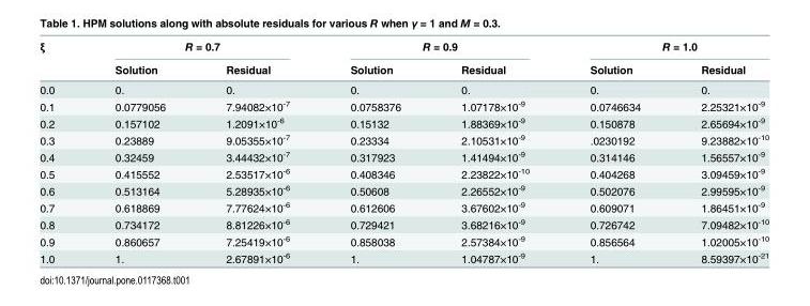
<table><thead><tr><td rowspan="2">ξ</td><td colspan="2">R = 0.7</td><td colspan="2">R = 0.9</td><td colspan="2">R = 1.0</td></tr><tr><td>Solution</td><td>Residual</td><td>Solution</td><td>Residual</td><td>Solution</td><td>Residual</td></tr></thead><tbody><tr><td>0.0</td><td>0.</td><td>0.</td><td>0.</td><td>0.</td><td>0.</td><td>0.</td></tr><tr><td>0.1</td><td>0.0779056</td><td>7.94082×10<sup>-7</sup></td><td>0.0758376</td><td>1.07178×10<sup>-9</sup></td><td>0.0746634</td><td>2.25321×10<sup>-9</sup></td></tr><tr><td>0.2</td><td>0.157102</td><td>1.2091×10<sup>-6</sup></td><td>0.15132</td><td>1.88369×10<sup>-9</sup></td><td>0.150878</td><td>2.65694×10<sup>-9</sup></td></tr><tr><td>0.3</td><td>0.23889</td><td>9.05355×10<sup>-7</sup></td><td>0.23334</td><td>2.10531×10<sup>-9</sup></td><td>.0230192</td><td>9.23882×10<sup>-10</sup></td></tr><tr><td>0.4</td><td>0.32459</td><td>3.44432×10<sup>-7</sup></td><td>0.317923</td><td>1.41494×10<sup>-9</sup></td><td>0.314146</td><td>1.56557×10<sup>-9</sup></td></tr><tr><td>0.5</td><td>0.415552</td><td>2.53517×10<sup>-6</sup></td><td>0.408346</td><td>2.23822×10<sup>-10</sup></td><td>0.404268</td><td>3.09459×10<sup>-9</sup></td></tr><tr><td>0.6</td><td>0.513164</td><td>5.28935×10<sup>-6</sup></td><td>0.50608</td><td>2.26552×10<sup>-9</sup></td><td>0.502076</td><td>2.99595×10<sup>-9</sup></td></tr><tr><td>0.7</td><td>0.618869</td><td>7.77624×10<sup>-6</sup></td><td>0.612606</td><td>3.67602×10<sup>-9</sup></td><td>0.609071</td><td>1.86451×10<sup>-9</sup></td></tr><tr><td>0.8</td><td>0.734172</td><td>8.81226×10<sup>-6</sup></td><td>0.729421</td><td>3.68216×10<sup>-9</sup></td><td>0.726742</td><td>7.09482×10<sup>-10</sup></td></tr><tr><td>0.9</td><td>0.860657</td><td>7.25419×10<sup>-6</sup></td><td>0.858038</td><td>2.57384×10<sup>-9</sup></td><td>0.856564</td><td>1.02005×10<sup>-10</sup></td></tr><tr><td>1.0</td><td>1.</td><td>2.67891×10<sup>-6</sup></td><td>1.</td><td>1.04787×10<sup>-9</sup></td><td>1.</td><td>8.59397×10<sup>-21</sup></td></tr></tbody></table>